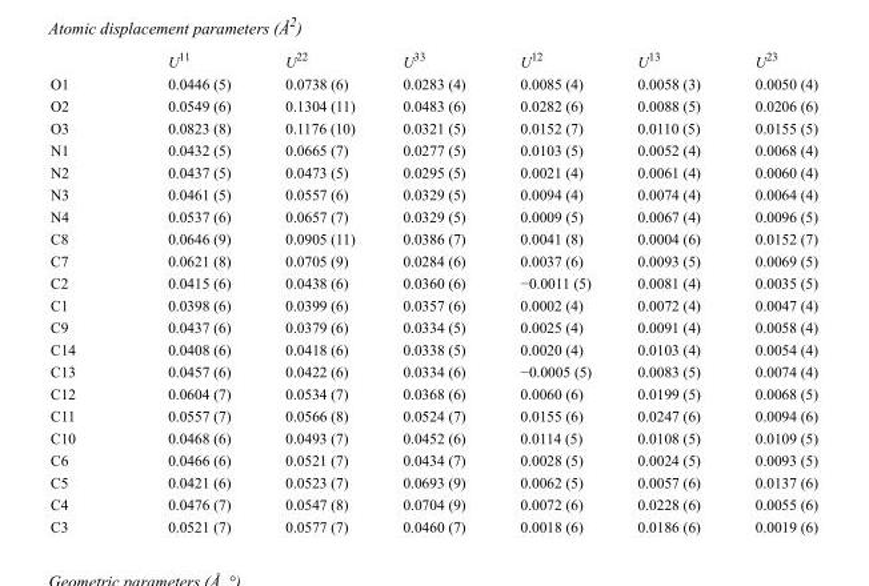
<table><thead><tr><td></td><td>U<sup>11</sup></td><td>U<sup>22</sup></td><td>U<sup>33</sup></td><td>U<sup>12</sup></td><td>U<sup>13</sup></td><td>U<sup>23</sup></td></tr></thead><tbody><tr><td>O1</td><td>0.0446 (5)</td><td>0.0738 (6)</td><td>0.0283 (4)</td><td>0.0085 (4)</td><td>0.0058 (3)</td><td>0.0050 (4)</td></tr><tr><td>O2</td><td>0.0549 (6)</td><td>0.1304 (11)</td><td>0.0483 (6)</td><td>0.0282 (6)</td><td>0.0088 (5)</td><td>0.0206 (6)</td></tr><tr><td>O3</td><td>0.0823 (8)</td><td>0.1176 (10)</td><td>0.0321 (5)</td><td>0.0152 (7)</td><td>0.0110 (5)</td><td>0.0155 (5)</td></tr><tr><td>N1</td><td>0.0432 (5)</td><td>0.0665 (7)</td><td>0.0277 (5)</td><td>0.0103 (5)</td><td>0.0052 (4)</td><td>0.0068 (4)</td></tr><tr><td>N2</td><td>0.0437 (5)</td><td>0.0473 (5)</td><td>0.0295 (5)</td><td>0.0021 (4)</td><td>0.0061 (4)</td><td>0.0060 (4)</td></tr><tr><td>N3</td><td>0.0461 (5)</td><td>0.0557 (6)</td><td>0.0329 (5)</td><td>0.0094 (4)</td><td>0.0074 (4)</td><td>0.0064 (4)</td></tr><tr><td>N4</td><td>0.0537 (6)</td><td>0.0657 (7)</td><td>0.0329 (5)</td><td>0.0009 (5)</td><td>0.0067 (4)</td><td>0.0096 (5)</td></tr><tr><td>C8</td><td>0.0646 (9)</td><td>0.0905 (11)</td><td>0.0386 (7)</td><td>0.0041 (8)</td><td>0.0004 (6)</td><td>0.0152 (7)</td></tr><tr><td>C7</td><td>0.0621 (8)</td><td>0.0705 (9)</td><td>0.0284 (6)</td><td>0.0037 (6)</td><td>0.0093 (5)</td><td>0.0069 (5)</td></tr><tr><td>C2</td><td>0.0415 (6)</td><td>0.0438 (6)</td><td>0.0360 (6)</td><td>−0.0011 (5)</td><td>0.0081 (4)</td><td>0.0035 (5)</td></tr><tr><td>C1</td><td>0.0398 (6)</td><td>0.0399 (6)</td><td>0.0357 (6)</td><td>0.0002 (4)</td><td>0.0072 (4)</td><td>0.0047 (4)</td></tr><tr><td>C9</td><td>0.0437 (6)</td><td>0.0379 (6)</td><td>0.0334 (5)</td><td>0.0025 (4)</td><td>0.0091 (4)</td><td>0.0058 (4)</td></tr><tr><td>C14</td><td>0.0408 (6)</td><td>0.0418 (6)</td><td>0.0338 (5)</td><td>0.0020 (4)</td><td>0.0103 (4)</td><td>0.0054 (4)</td></tr><tr><td>C13</td><td>0.0457 (6)</td><td>0.0422 (6)</td><td>0.0334 (6)</td><td>−0.0005 (5)</td><td>0.0083 (5)</td><td>0.0074 (4)</td></tr><tr><td>C12</td><td>0.0604 (7)</td><td>0.0534 (7)</td><td>0.0368 (6)</td><td>0.0060 (6)</td><td>0.0199 (5)</td><td>0.0068 (5)</td></tr><tr><td>C11</td><td>0.0557 (7)</td><td>0.0566 (8)</td><td>0.0524 (7)</td><td>0.0155 (6)</td><td>0.0247 (6)</td><td>0.0094 (6)</td></tr><tr><td>C10</td><td>0.0468 (6)</td><td>0.0493 (7)</td><td>0.0452 (6)</td><td>0.0114 (5)</td><td>0.0108 (5)</td><td>0.0109 (5)</td></tr><tr><td>C6</td><td>0.0466 (6)</td><td>0.0521 (7)</td><td>0.0434 (7)</td><td>0.0028 (5)</td><td>0.0024 (5)</td><td>0.0093 (5)</td></tr><tr><td>C5</td><td>0.0421 (6)</td><td>0.0523 (7)</td><td>0.0693 (9)</td><td>0.0062 (5)</td><td>0.0057 (6)</td><td>0.0137 (6)</td></tr><tr><td>C4</td><td>0.0476 (7)</td><td>0.0547 (8)</td><td>0.0704 (9)</td><td>0.0072 (6)</td><td>0.0228 (6)</td><td>0.0055 (6)</td></tr><tr><td>C3</td><td>0.0521 (7)</td><td>0.0577 (7)</td><td>0.0460 (7)</td><td>0.0018 (6)</td><td>0.0186 (6)</td><td>0.0019 (6)</td></tr></tbody></table>